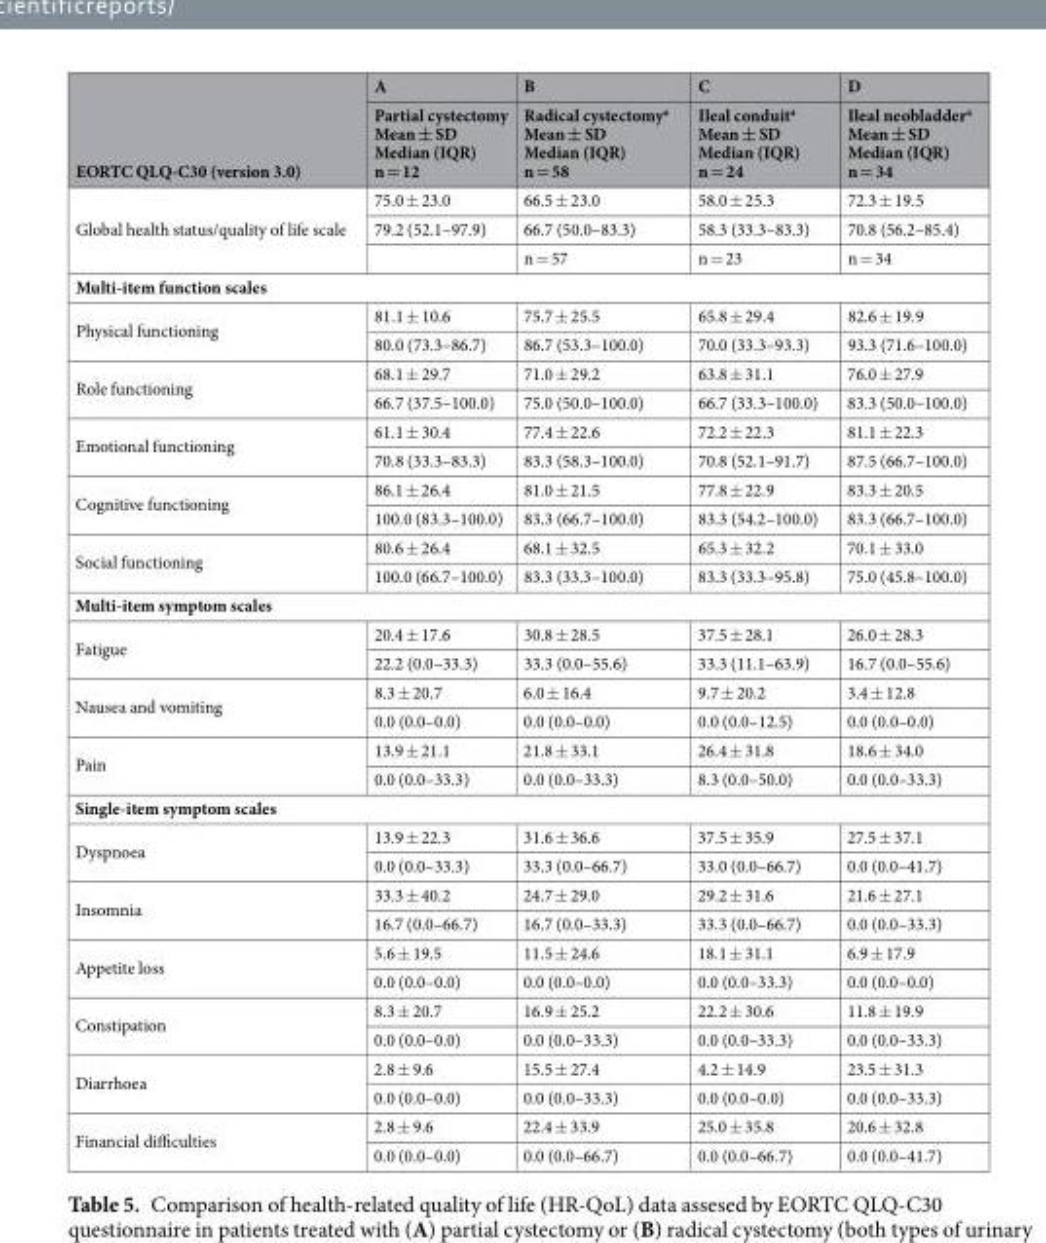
<table><thead><tr><td rowspan="2">EORTC QLQ-C30 (version 3.0)</td><td rowspan="2">A Partial cystectomy Mean ± SD Median (IQR) n = 12</td><td rowspan="2">B Radical cystectomy<sup>a</sup> Mean ± SD Median (IQR) n = 58</td><td rowspan="2">C Ileal conduit<sup>a</sup> Mean ± SD Median (IQR) n = 24</td><td rowspan="2">D Ileal neobladder<sup>a</sup> Mean ± SD Median (IQR) n = 34</td></tr><tr></tr></thead><tbody><tr><td rowspan="3">Global health status/quality of life scale</td><td>75.0 ± 23.0</td><td>66.5 ± 23.0</td><td>58.0 ± 25.3</td><td>72.3 ± 19.5</td></tr><tr><td>79.2 (52.1–97.9)</td><td>66.7 (50.0–83.3)</td><td>58.3 (33.3–83.3)</td><td>70.8 (56.2–85.4)</td></tr><tr><td></td><td>n = 57</td><td>n = 23</td><td>n = 34</td></tr><tr><td colspan="5">Multi-item function scales</td></tr><tr><td rowspan="2">Physical functioning</td><td>81.1 ± 10.6</td><td>75.7 ± 25.5</td><td>65.8 ± 29.4</td><td>82.6 ± 19.9</td></tr><tr><td>80.0 (73.3–86.7)</td><td>86.7 (53.3–100.0)</td><td>70.0 (33.3–93.3)</td><td>93.3 (71.6–100.0)</td></tr><tr><td rowspan="2">Role functioning</td><td>68.1 ± 29.7</td><td>71.0 ± 29.2</td><td>63.8 ± 31.1</td><td>76.0 ± 27.9</td></tr><tr><td>66.7 (37.5–100.0)</td><td>75.0 (50.0–100.0)</td><td>66.7 (33.3–100.0)</td><td>83.3 (50.0–100.0)</td></tr><tr><td rowspan="2">Emotional functioning</td><td>61.1 ± 30.4</td><td>77.4 ± 22.6</td><td>72.2 ± 22.3</td><td>81.1 ± 22.3</td></tr><tr><td>70.8 (33.3–83.3)</td><td>83.3 (58.3–100.0)</td><td>70.8 (52.1–91.7)</td><td>87.5 (66.7–100.0)</td></tr><tr><td rowspan="2">Cognitive functioning</td><td>86.1 ± 26.4</td><td>81.0 ± 21.5</td><td>77.8 ± 22.9</td><td>83.3 ± 20.5</td></tr><tr><td>100.0 (83.3–100.0)</td><td>83.3 (66.7–100.0)</td><td>83.3 (54.2–100.0)</td><td>83.3 (66.7–100.0)</td></tr><tr><td rowspan="2">Social functioning</td><td>80.6 ± 26.4</td><td>68.1 ± 32.5</td><td>65.3 ± 32.2</td><td>70.1 ± 33.0</td></tr><tr><td>100.0 (66.7–100.0)</td><td>83.3 (33.3–100.0)</td><td>83.3 (33.3–95.8)</td><td>75.0 (45.8–100.0)</td></tr><tr><td colspan="5">Multi-item symptom scales</td></tr><tr><td rowspan="2">Fatigue</td><td>20.4 ± 17.6</td><td>30.8 ± 28.5</td><td>37.5 ± 28.1</td><td>26.0 ± 28.3</td></tr><tr><td>22.2 (0.0–33.3)</td><td>33.3 (0.0–55.6)</td><td>33.3 (11.1–63.9)</td><td>16.7 (0.0–55.6)</td></tr><tr><td rowspan="2">Nausea and vomiting</td><td>8.3 ± 20.7</td><td>6.0 ± 16.4</td><td>9.7 ± 20.2</td><td>3.4 ± 12.8</td></tr><tr><td>0.0 (0.0–0.0)</td><td>0.0 (0.0–0.0)</td><td>0.0 (0.0–12.5)</td><td>0.0 (0.0–0.0)</td></tr><tr><td rowspan="2">Pain</td><td>13.9 ± 21.1</td><td>21.8 ± 33.1</td><td>26.4 ± 31.8</td><td>18.6 ± 34.0</td></tr><tr><td>0.0 (0.0–33.3)</td><td>0.0 (0.0–33.3)</td><td>8.3 (0.0–50.0)</td><td>0.0 (0.0–33.3)</td></tr><tr><td colspan="5">Single-item symptom scales</td></tr><tr><td rowspan="2">Dyspnoea</td><td>13.9 ± 22.3</td><td>31.6 ± 36.6</td><td>37.5 ± 35.9</td><td>27.5 ± 37.1</td></tr><tr><td>0.0 (0.0–33.3)</td><td>33.3 (0.0–66.7)</td><td>33.0 (0.0–66.7)</td><td>0.0 (0.0–41.7)</td></tr><tr><td rowspan="2">Insomnia</td><td>33.3 ± 40.2</td><td>24.7 ± 29.0</td><td>29.2 ± 31.6</td><td>21.6 ± 27.1</td></tr><tr><td>16.7 (0.0–66.7)</td><td>16.7 (0.0–33.3)</td><td>33.3 (0.0–66.7)</td><td>0.0 (0.0–33.3)</td></tr><tr><td rowspan="2">Appetite loss</td><td>5.6 ± 19.5</td><td>11.5 ± 24.6</td><td>18.1 ± 31.1</td><td>6.9 ± 17.9</td></tr><tr><td>0.0 (0.0–0.0)</td><td>0.0 (0.0–0.0)</td><td>0.0 (0.0–33.3)</td><td>0.0 (0.0–0.0)</td></tr><tr><td rowspan="2">Constipation</td><td>8.3 ± 20.7</td><td>16.9 ± 25.2</td><td>22.2 ± 30.6</td><td>11.8 ± 19.9</td></tr><tr><td>0.0 (0.0–0.0)</td><td>0.0 (0.0–33.3)</td><td>0.0 (0.0–33.3)</td><td>0.0 (0.0–33.3)</td></tr><tr><td rowspan="2">Diarrhoea</td><td>2.8 ± 9.6</td><td>15.5 ± 27.4</td><td>4.2 ± 14.9</td><td>23.5 ± 31.3</td></tr><tr><td>0.0 (0.0–0.0)</td><td>0.0 (0.0–33.3)</td><td>0.0 (0.0–0.0)</td><td>0.0 (0.0–33.3)</td></tr><tr><td rowspan="2">Financial difficulties</td><td>2.8 ± 9.6</td><td>22.4 ± 33.9</td><td>25.0 ± 35.8</td><td>20.6 ± 32.8</td></tr><tr><td>0.0 (0.0–0.0)</td><td>0.0 (0.0–66.7)</td><td>0.0 (0.0–66.7)</td><td>0.0 (0.0–41.7)</td></tr></tbody></table>